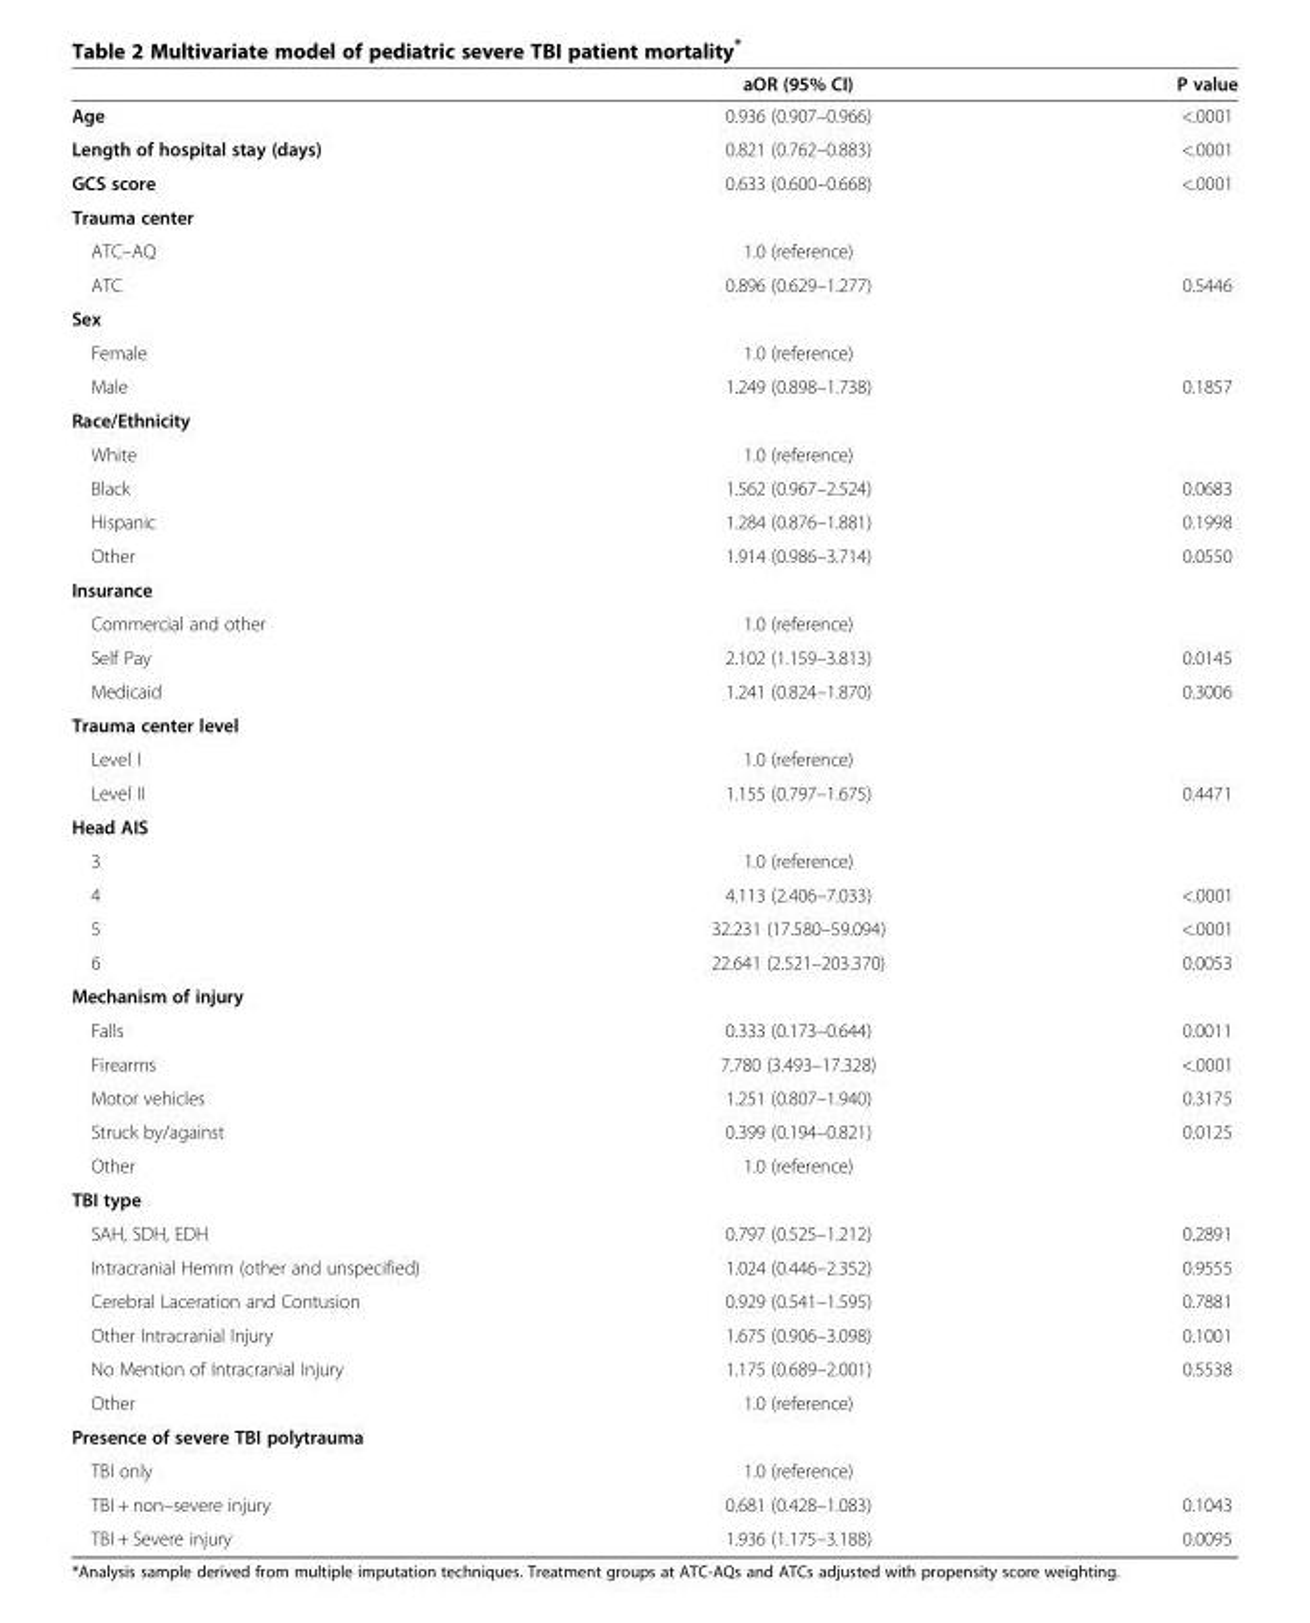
<table><thead><tr><td></td><td>aOR (95% CI)</td><td>P value</td></tr></thead><tbody><tr><td>Age</td><td>0.936 (0.907–0.966)</td><td>&lt;.0001</td></tr><tr><td>Length of hospital stay (days)</td><td>0.821 (0.762–0.883)</td><td>&lt;.0001</td></tr><tr><td>GCS score</td><td>0.633 (0.600–0.668)</td><td>&lt;.0001</td></tr><tr><td colspan="3">Trauma center</td></tr><tr><td>ATC–AQ</td><td>1.0 (reference)</td><td></td></tr><tr><td>ATC</td><td>0.896 (0.629–1.277)</td><td>0.5446</td></tr><tr><td colspan="3">Sex</td></tr><tr><td>Female</td><td>1.0 (reference)</td><td></td></tr><tr><td>Male</td><td>1.249 (0.898–1.738)</td><td>0.1857</td></tr><tr><td colspan="3">Race/Ethnicity</td></tr><tr><td>White</td><td>1.0 (reference)</td><td></td></tr><tr><td>Black</td><td>1.562 (0.967–2.524)</td><td>0.0683</td></tr><tr><td>Hispanic</td><td>1.284 (0.876–1.881)</td><td>0.1998</td></tr><tr><td>Other</td><td>1.914 (0.986–3.714)</td><td>0.0550</td></tr><tr><td colspan="3">Insurance</td></tr><tr><td>Commercial and other</td><td>1.0 (reference)</td><td></td></tr><tr><td>Self Pay</td><td>2.102 (1.159–3.813)</td><td>0.0145</td></tr><tr><td>Medicaid</td><td>1.241 (0.824–1.870)</td><td>0.3006</td></tr><tr><td colspan="3">Trauma center level</td></tr><tr><td>Level I</td><td>1.0 (reference)</td><td></td></tr><tr><td>Level II</td><td>1.155 (0.797–1.675)</td><td>0.4471</td></tr><tr><td colspan="3">Head AIS</td></tr><tr><td>3</td><td>1.0 (reference)</td><td></td></tr><tr><td>4</td><td>4.113 (2.406–7.033)</td><td>&lt;.0001</td></tr><tr><td>5</td><td>32.231 (17.580–59.094)</td><td>&lt;.0001</td></tr><tr><td>6</td><td>22.641 (2.521–203.370)</td><td>0.0053</td></tr><tr><td colspan="3">Mechanism of injury</td></tr><tr><td>Falls</td><td>0.333 (0.173–0.644)</td><td>0.0011</td></tr><tr><td>Firearms</td><td>7.780 (3.493–17.328)</td><td>&lt;.0001</td></tr><tr><td>Motor vehicles</td><td>1.251 (0.807–1.940)</td><td>0.3175</td></tr><tr><td>Struck by/against</td><td>0.399 (0.194–0.821)</td><td>0.0125</td></tr><tr><td>Other</td><td>1.0 (reference)</td><td></td></tr><tr><td colspan="3">TBI type</td></tr><tr><td>SAH, SDH, EDH</td><td>0.797 (0.525–1.212)</td><td>0.2891</td></tr><tr><td>Intracranial Hemm (other and unspecified)</td><td>1.024 (0.446–2.352)</td><td>0.9555</td></tr><tr><td>Cerebral Laceration and Contusion</td><td>0.929 (0.541–1.595)</td><td>0.7881</td></tr><tr><td>Other Intracranial Injury</td><td>1.675 (0.906–3.098)</td><td>0.1001</td></tr><tr><td>No Mention of Intracranial Injury</td><td>1.175 (0.689–2.001)</td><td>0.5538</td></tr><tr><td>Other</td><td>1.0 (reference)</td><td></td></tr><tr><td colspan="3">Presence of severe TBI polytrauma</td></tr><tr><td>TBI only</td><td>1.0 (reference)</td><td></td></tr><tr><td>TBI + non–severe injury</td><td>0.681 (0.428–1.083)</td><td>0.1043</td></tr><tr><td>TBI + Severe injury</td><td>1.936 (1.175–3.188)</td><td>0.0095</td></tr></tbody></table>